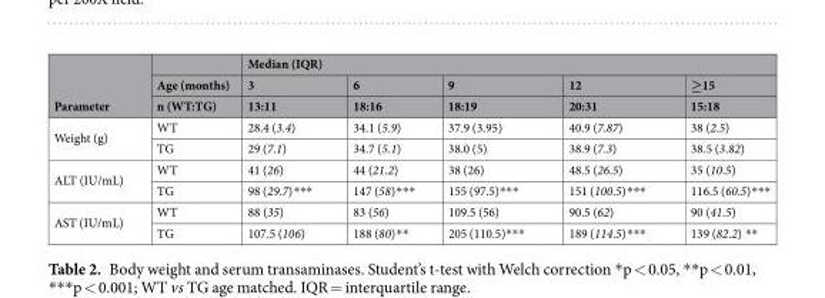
<table><thead><tr><td rowspan="3">Parameter</td><td rowspan="3">Age (months) n (WT:TG)</td><td colspan="5">Median (IQR)</td></tr><tr><td rowspan="2">3 13:11</td><td rowspan="2">6 18:16</td><td rowspan="2">9 18:19</td><td rowspan="2">12 20:31</td><td rowspan="2">≥15 15:18</td></tr><tr></tr></thead><tbody><tr><td rowspan="2">Weight (g)</td><td>WT</td><td>28.4 (3.4)</td><td>34.1 (5.9)</td><td>37.9 (3.95)</td><td>40.9 (7.87)</td><td>38 (2.5)</td></tr><tr><td>TG</td><td>29 (7.1)</td><td>34.7 (5.1)</td><td>38.0 (5)</td><td>38.9 (7.3)</td><td>38.5 (3.82)</td></tr><tr><td rowspan="2">ALT (IU/mL)</td><td>WT</td><td>41 (26)</td><td>44 (21.2)</td><td>38 (26)</td><td>48.5 (26.5)</td><td>35 (10.5)</td></tr><tr><td>TG</td><td>98 (29.7)***</td><td>147 (58)***</td><td>155 (97.5)***</td><td>151 (100.5)***</td><td>116.5 (60.5)***</td></tr><tr><td rowspan="2">AST (IU/mL)</td><td>WT</td><td>88 (35)</td><td>83 (56)</td><td>109.5 (56)</td><td>90.5 (62)</td><td>90 (41.5)</td></tr><tr><td>TG</td><td>107.5 (106)</td><td>188 (80)**</td><td>205 (110.5)***</td><td>189 (114.5)***</td><td>139 (82.2) **</td></tr></tbody></table>